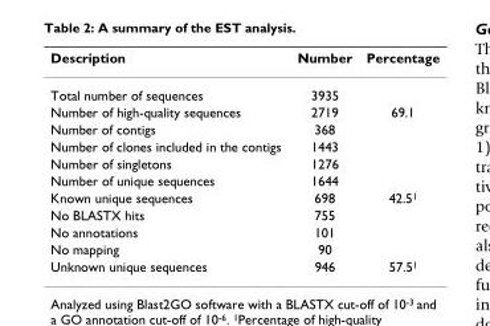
<table><thead><tr><td>Description</td><td>Number</td><td>Percentage</td></tr></thead><tbody><tr><td>Total number of sequences</td><td>3935</td><td></td></tr><tr><td>Number of high-quality sequences</td><td>2719</td><td>69.1</td></tr><tr><td>Number of contigs</td><td>368</td><td></td></tr><tr><td>Number of clones included in the contigs</td><td>1443</td><td></td></tr><tr><td>Number of singletons</td><td>1276</td><td></td></tr><tr><td>Number of unique sequences</td><td>1644</td><td></td></tr><tr><td>Known unique sequences</td><td>698</td><td>42.5<sup>1</sup></td></tr><tr><td>No BLASTX hits</td><td>755</td><td></td></tr><tr><td>No annotations</td><td>101</td><td></td></tr><tr><td>No mapping</td><td>90</td><td></td></tr><tr><td>Unknown unique sequences</td><td>946</td><td>57.5<sup>1</sup></td></tr></tbody></table>